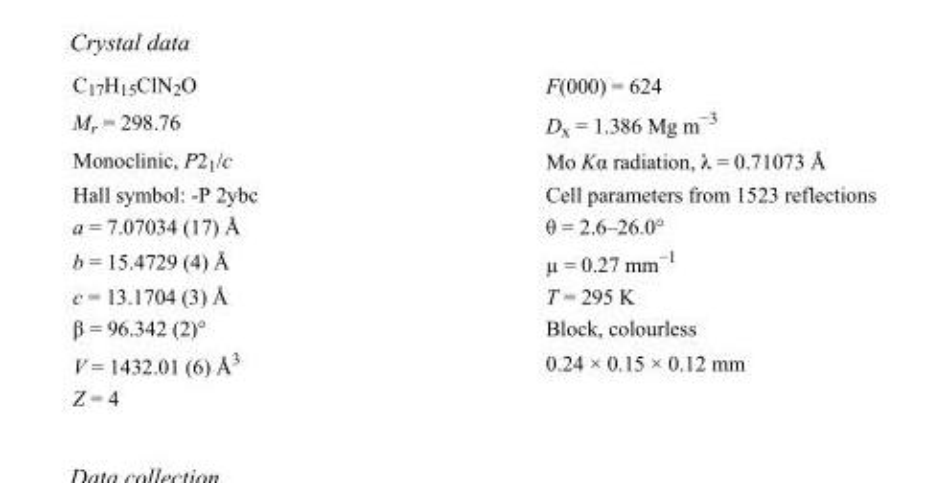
<table><tbody><tr><td>C<sub>17</sub>H<sub>15</sub>ClN<sub>2</sub>O</td><td>F(000) = 624</td></tr><tr><td>M<sub>r</sub> = 298.76</td><td>D<sub>x</sub> = 1.386 Mg m<sup>−3</sup></td></tr><tr><td>Monoclinic, P2<sub>1</sub>/c</td><td>Mo Kα radiation, λ = 0.71073 Å</td></tr><tr><td>Hall symbol: -P 2ybc</td><td>Cell parameters from 1523 reflections</td></tr><tr><td>a = 7.07034 (17) Å</td><td>θ = 2.6–26.0°</td></tr><tr><td>b = 15.4729 (4) Å</td><td>µ = 0.27 mm<sup>−1</sup></td></tr><tr><td>c = 13.1704 (3) Å</td><td>T = 295 K</td></tr><tr><td>β = 96.342 (2)°</td><td>Block, colourless</td></tr><tr><td>V = 1432.01 (6) Å<sup>3</sup></td><td>0.24 × 0.15 × 0.12 mm</td></tr><tr><td>Z = 4</td><td></td></tr></tbody></table>